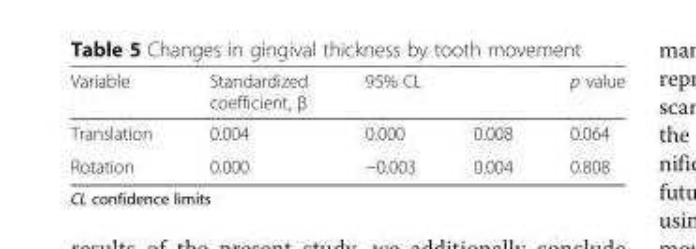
<table><thead><tr><td rowspan="2">Variable Translation</td><td rowspan="2">Standardized coefficient, β 0.004</td><td colspan="2">95% CL</td><td rowspan="2">p value 0.064</td></tr><tr><td>0.000</td><td>0.008</td></tr></thead><tbody><tr><td>Rotation</td><td>0.000</td><td>−0.003</td><td>0.004</td><td>0.808</td></tr></tbody></table>